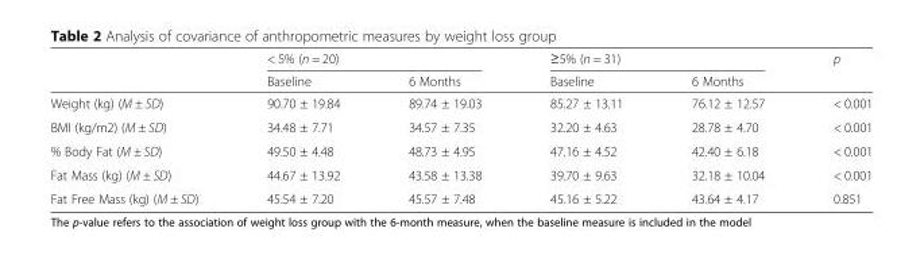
<table><thead><tr><td rowspan="2"></td><td colspan="2">&lt; 5% (n = 20)</td><td colspan="2">≥5% (n = 31)</td><td rowspan="2">p</td></tr><tr><td>Baseline</td><td>6 Months</td><td>Baseline</td><td>6 Months</td></tr></thead><tbody><tr><td>Weight (kg) (M ± SD)</td><td>90.70 ± 19.84</td><td>89.74 ± 19.03</td><td>85.27 ± 13.11</td><td>76.12 ± 12.57</td><td>&lt; 0.001</td></tr><tr><td>BMI (kg/m2) (M ± SD)</td><td>34.48 ± 7.71</td><td>34.57 ± 7.35</td><td>32.20 ± 4.63</td><td>28.78 ± 4.70</td><td>&lt; 0.001</td></tr><tr><td>% Body Fat (M ± SD)</td><td>49.50 ± 4.48</td><td>48.73 ± 4.95</td><td>47.16 ± 4.52</td><td>42.40 ± 6.18</td><td>&lt; 0.001</td></tr><tr><td>Fat Mass (kg) (M ± SD)</td><td>44.67 ± 13.92</td><td>43.58 ± 13.38</td><td>39.70 ± 9.63</td><td>32.18 ± 10.04</td><td>&lt; 0.001</td></tr><tr><td>Fat Free Mass (kg) (M ± SD)</td><td>45.54 ± 7.20</td><td>45.57 ± 7.48</td><td>45.16 ± 5.22</td><td>43.64 ± 4.17</td><td>0.851</td></tr></tbody></table>